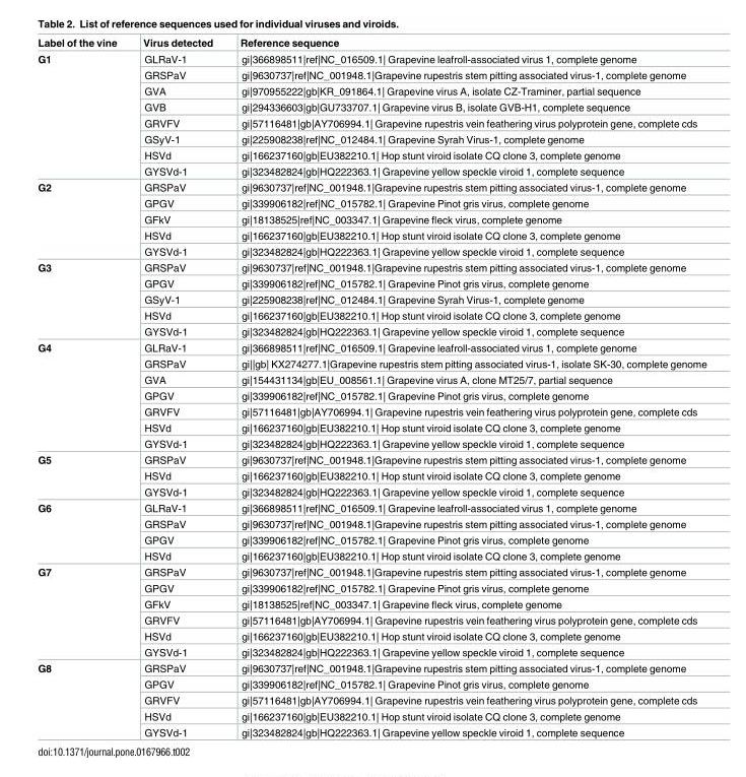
<table><thead><tr><td>Label of the vine</td><td>Virus detected</td><td>Reference sequence</td></tr></thead><tbody><tr><td rowspan="8">G1</td><td>GLRaV-1</td><td>gi|366898511|ref|NC_016509.1| Grapevine leafroll-associated virus 1, complete genome</td></tr><tr><td>GRSPaV</td><td>gi|9630737|ref|NC_001948.1|Grapevine rupestris stem pitting associated virus-1, complete genome</td></tr><tr><td>GVA</td><td>gi|970955222|gb|KR_091864.1| Grapevine virus A, isolate CZ-Traminer, partial sequence</td></tr><tr><td>GVB</td><td>gi|294336603|gb|GU733707.1| Grapevine virus B, isolate GVB-H1, complete sequence</td></tr><tr><td>GRVFV</td><td>gi|57116481|gb|AY706994.1| Grapevine rupestris vein feathering virus polyprotein gene, complete cds</td></tr><tr><td>GSyV-1</td><td>gi|225908238|ref|NC_012484.1| Grapevine Syrah Virus-1, complete genome</td></tr><tr><td>HSVd</td><td>gi|166237160|gb|EU382210.1| Hop stunt viroid isolate CQ clone 3, complete genome</td></tr><tr><td>GYSVd-1</td><td>gi|323482824|gb|HQ222363.1| Grapevine yellow speckle viroid 1, complete sequence</td></tr><tr><td rowspan="5">G2</td><td>GRSPaV</td><td>gi|9630737|ref|NC_001948.1|Grapevine rupestris stem pitting associated virus-1, complete genome</td></tr><tr><td>GPGV</td><td>gi|339906182|ref|NC_015782.1| Grapevine Pinot gris virus, complete genome</td></tr><tr><td>GFkV</td><td>gi|18138525|ref|NC_003347.1| Grapevine fleck virus, complete genome</td></tr><tr><td>HSVd</td><td>gi|166237160|gb|EU382210.1| Hop stunt viroid isolate CQ clone 3, complete genome</td></tr><tr><td>GYSVd-1</td><td>gi|323482824|gb|HQ222363.1| Grapevine yellow speckle viroid 1, complete sequence</td></tr><tr><td rowspan="5">G3</td><td>GRSPaV</td><td>gi|9630737|ref|NC_001948.1|Grapevine rupestris stem pitting associated virus-1, complete genome</td></tr><tr><td>GPGV</td><td>gi|339906182|ref|NC_015782.1| Grapevine Pinot gris virus, complete genome</td></tr><tr><td>GSyV-1</td><td>gi|225908238|ref|NC_012484.1| Grapevine Syrah Virus-1, complete genome</td></tr><tr><td>HSVd</td><td>gi|166237160|gb|EU382210.1| Hop stunt viroid isolate CQ clone 3, complete genome</td></tr><tr><td>GYSVd-1</td><td>gi|323482824|gb|HQ222363.1| Grapevine yellow speckle viroid 1, complete sequence</td></tr><tr><td rowspan="7">G4</td><td>GLRaV-1</td><td>gi|366898511|ref|NC_016509.1| Grapevine leafroll-associated virus 1, complete genome</td></tr><tr><td>GRSPaV</td><td>gi||gb| KX274277.1|Grapevine rupestris stem pitting associated virus-1, isolate SK-30, complete genome</td></tr><tr><td>GVA</td><td>gi|154431134|gb|EU_008561.1| Grapevine virus A, clone MT25/7, partial sequence</td></tr><tr><td>GPGV</td><td>gi|339906182|ref|NC_015782.1| Grapevine Pinot gris virus, complete genome</td></tr><tr><td>GRVFV</td><td>gi|57116481|gb|AY706994.1| Grapevine rupestris vein feathering virus polyprotein gene, complete cds</td></tr><tr><td>HSVd</td><td>gi|166237160|gb|EU382210.1| Hop stunt viroid isolate CQ clone 3, complete genome</td></tr><tr><td>GYSVd-1</td><td>gi|323482824|gb|HQ222363.1| Grapevine yellow speckle viroid 1, complete sequence</td></tr><tr><td rowspan="3">G5</td><td>GRSPaV</td><td>gi|9630737|ref|NC_001948.1|Grapevine rupestris stem pitting associated virus-1, complete genome</td></tr><tr><td>HSVd</td><td>gi|166237160|gb|EU382210.1| Hop stunt viroid isolate CQ clone 3, complete genome</td></tr><tr><td>GYSVd-1</td><td>gi|323482824|gb|HQ222363.1| Grapevine yellow speckle viroid 1, complete sequence</td></tr><tr><td rowspan="4">G6</td><td>GLRaV-1</td><td>gi|366898511|ref|NC_016509.1| Grapevine leafroll-associated virus 1, complete genome</td></tr><tr><td>GRSPaV</td><td>gi|9630737|ref|NC_001948.1|Grapevine rupestris stem pitting associated virus-1, complete genome</td></tr><tr><td>GPGV</td><td>gi|339906182|ref|NC_015782.1| Grapevine Pinot gris virus, complete genome</td></tr><tr><td>HSVd</td><td>gi|166237160|gb|EU382210.1| Hop stunt viroid isolate CQ clone 3, complete genome</td></tr><tr><td rowspan="6">G7</td><td>GRSPaV</td><td>gi|9630737|ref|NC_001948.1|Grapevine rupestris stem pitting associated virus-1, complete genome</td></tr><tr><td>GPGV</td><td>gi|339906182|ref|NC_015782.1| Grapevine Pinot gris virus, complete genome</td></tr><tr><td>GFkV</td><td>gi|18138525|ref|NC_003347.1| Grapevine fleck virus, complete genome</td></tr><tr><td>GRVFV</td><td>gi|57116481|gb|AY706994.1| Grapevine rupestris vein feathering virus polyprotein gene, complete cds</td></tr><tr><td>HSVd</td><td>gi|166237160|gb|EU382210.1| Hop stunt viroid isolate CQ clone 3, complete genome</td></tr><tr><td>GYSVd-1</td><td>gi|323482824|gb|HQ222363.1| Grapevine yellow speckle viroid 1, complete sequence</td></tr><tr><td rowspan="5">G8</td><td>GRSPaV</td><td>gi|9630737|ref|NC_001948.1|Grapevine rupestris stem pitting associated virus-1, complete genome</td></tr><tr><td>GPGV</td><td>gi|339906182|ref|NC_015782.1| Grapevine Pinot gris virus, complete genome</td></tr><tr><td>GRVFV</td><td>gi|57116481|gb|AY706994.1| Grapevine rupestris vein feathering virus polyprotein gene, complete cds</td></tr><tr><td>HSVd</td><td>gi|166237160|gb|EU382210.1| Hop stunt viroid isolate CQ clone 3, complete genome</td></tr><tr><td>GYSVd-1</td><td>gi|323482824|gb|HQ222363.1| Grapevine yellow speckle viroid 1, complete sequence</td></tr></tbody></table>